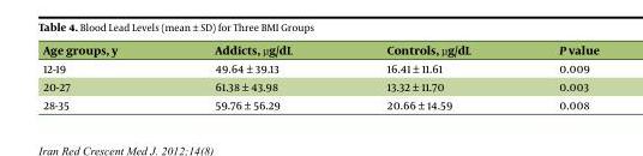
<table><thead><tr><td>Age groups, y</td><td>Addicts, µg/dL</td><td>Controls, µg/dL</td><td>P value</td></tr></thead><tbody><tr><td>12-19</td><td>49.64 ± 39.13</td><td>16.41 ± 11.61</td><td>0.009</td></tr><tr><td>20-27</td><td>61.38 ± 43.98</td><td>13.32 ± 11.70</td><td>0.003</td></tr><tr><td>28-35</td><td>59.76 ± 56.29</td><td>20.66 ± 14.59</td><td>0.008</td></tr></tbody></table>